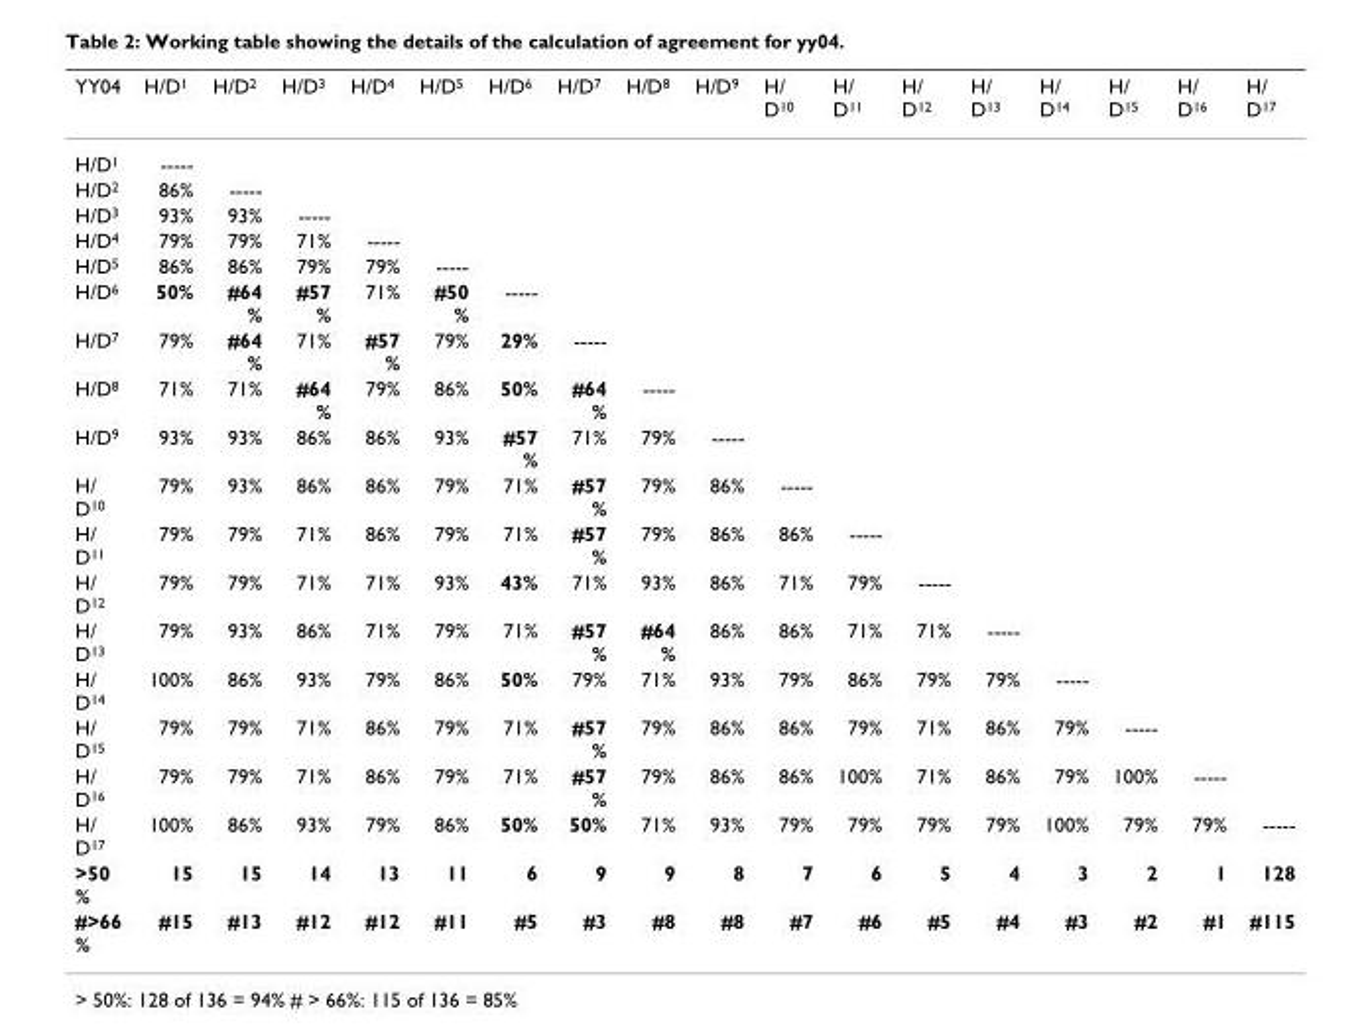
<table><thead><tr><td>YY04</td><td>H/D<sup>1</sup></td><td>H/D<sup>2</sup></td><td>H/D<sup>3</sup></td><td>H/D<sup>4</sup></td><td>H/D<sup>5</sup></td><td>H/D<sup>6</sup></td><td>H/D<sup>7</sup></td><td>H/D<sup>8</sup></td><td>H/D<sup>9</sup></td><td>H/ D<sup>10</sup></td><td>H/ D<sup>11</sup></td><td>H/ D<sup>12</sup></td><td>H/ D<sup>13</sup></td><td>H/ D<sup>14</sup></td><td>H/ D<sup>15</sup></td><td>H/ D<sup>16</sup></td><td>H/ D<sup>17</sup></td></tr></thead><tbody><tr><td>H/D<sup>1</sup></td><td>-----</td><td></td><td></td><td></td><td></td><td></td><td></td><td></td><td></td><td></td><td></td><td></td><td></td><td></td><td></td><td></td><td></td></tr><tr><td>H/D<sup>2</sup></td><td>86%</td><td>-----</td><td></td><td></td><td></td><td></td><td></td><td></td><td></td><td></td><td></td><td></td><td></td><td></td><td></td><td></td><td></td></tr><tr><td>H/D<sup>3</sup></td><td>93%</td><td>93%</td><td>-----</td><td></td><td></td><td></td><td></td><td></td><td></td><td></td><td></td><td></td><td></td><td></td><td></td><td></td><td></td></tr><tr><td>H/D<sup>4</sup></td><td>79%</td><td>79%</td><td>71%</td><td>-----</td><td></td><td></td><td></td><td></td><td></td><td></td><td></td><td></td><td></td><td></td><td></td><td></td><td></td></tr><tr><td>H/D<sup>5</sup></td><td>86%</td><td>86%</td><td>79%</td><td>79%</td><td>-----</td><td></td><td></td><td></td><td></td><td></td><td></td><td></td><td></td><td></td><td></td><td></td><td></td></tr><tr><td>H/D<sup>6</sup></td><td>50%</td><td>#64 %</td><td>#57 %</td><td>71%</td><td>#50 %</td><td>-----</td><td></td><td></td><td></td><td></td><td></td><td></td><td></td><td></td><td></td><td></td><td></td></tr><tr><td>H/D<sup>7</sup></td><td>79%</td><td>#64 %</td><td>71%</td><td>#57 %</td><td>79%</td><td>29%</td><td>-----</td><td></td><td></td><td></td><td></td><td></td><td></td><td></td><td></td><td></td><td></td></tr><tr><td>H/D<sup>8</sup></td><td>71%</td><td>71%</td><td>#64 %</td><td>79%</td><td>86%</td><td>50%</td><td>#64 %</td><td>-----</td><td></td><td></td><td></td><td></td><td></td><td></td><td></td><td></td><td></td></tr><tr><td>H/D<sup>9</sup></td><td>93%</td><td>93%</td><td>86%</td><td>86%</td><td>93%</td><td>#57 %</td><td>71%</td><td>79%</td><td>-----</td><td></td><td></td><td></td><td></td><td></td><td></td><td></td><td></td></tr><tr><td>H/ D<sup>10</sup></td><td>79%</td><td>93%</td><td>86%</td><td>86%</td><td>79%</td><td>71%</td><td>#57 %</td><td>79%</td><td>86%</td><td>-----</td><td></td><td></td><td></td><td></td><td></td><td></td><td></td></tr><tr><td>H/ D<sup>11</sup></td><td>79%</td><td>79%</td><td>71%</td><td>86%</td><td>79%</td><td>71%</td><td>#57 %</td><td>79%</td><td>86%</td><td>86%</td><td>-----</td><td></td><td></td><td></td><td></td><td></td><td></td></tr><tr><td>H/ D<sup>12</sup></td><td>79%</td><td>79%</td><td>71%</td><td>71%</td><td>93%</td><td>43%</td><td>71%</td><td>93%</td><td>86%</td><td>71%</td><td>79%</td><td>-----</td><td></td><td></td><td></td><td></td><td></td></tr><tr><td>H/ D<sup>13</sup></td><td>79%</td><td>93%</td><td>86%</td><td>71%</td><td>79%</td><td>71%</td><td>#57 %</td><td>#64 %</td><td>86%</td><td>86%</td><td>71%</td><td>71%</td><td>-----</td><td></td><td></td><td></td><td></td></tr><tr><td>H/ D<sup>14</sup></td><td>100%</td><td>86%</td><td>93%</td><td>79%</td><td>86%</td><td>50%</td><td>79%</td><td>71%</td><td>93%</td><td>79%</td><td>86%</td><td>79%</td><td>79%</td><td>-----</td><td></td><td></td><td></td></tr><tr><td>H/ D<sup>15</sup></td><td>79%</td><td>79%</td><td>71%</td><td>86%</td><td>79%</td><td>71%</td><td>#57 %</td><td>79%</td><td>86%</td><td>86%</td><td>79%</td><td>71%</td><td>86%</td><td>79%</td><td>-----</td><td></td><td></td></tr><tr><td>H/ D<sup>16</sup></td><td>79%</td><td>79%</td><td>71%</td><td>86%</td><td>79%</td><td>71%</td><td>#57 %</td><td>79%</td><td>86%</td><td>86%</td><td>100%</td><td>71%</td><td>86%</td><td>79%</td><td>100%</td><td>-----</td><td></td></tr><tr><td>H/ D<sup>17</sup></td><td>100%</td><td>86%</td><td>93%</td><td>79%</td><td>86%</td><td>50%</td><td>50%</td><td>71%</td><td>93%</td><td>79%</td><td>79%</td><td>79%</td><td>79%</td><td>100%</td><td>79%</td><td>79%</td><td>-----</td></tr><tr><td>&gt;50 %</td><td>15</td><td>15</td><td>14</td><td>13</td><td>11</td><td>6</td><td>9</td><td>9</td><td>8</td><td>7</td><td>6</td><td>5</td><td>4</td><td>3</td><td>2</td><td>1</td><td>128</td></tr><tr><td>#&gt;66 %</td><td>#15</td><td>#13</td><td>#12</td><td>#12</td><td>#11</td><td>#5</td><td>#3</td><td>#8</td><td>#8</td><td>#7</td><td>#6</td><td>#5</td><td>#4</td><td>#3</td><td>#2</td><td>#1</td><td>#115</td></tr></tbody></table>